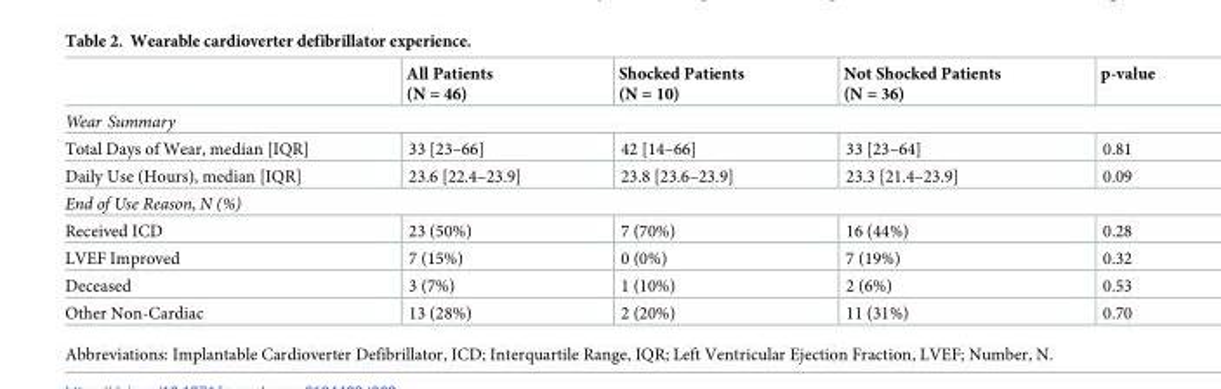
<table><thead><tr><td></td><td>All Patients (N = 46)</td><td>Shocked Patients (N = 10)</td><td>Not Shocked Patients (N = 36)</td><td>p-value</td></tr></thead><tbody><tr><td colspan="5">Wear Summary</td></tr><tr><td>Total Days of Wear, median [IQR]</td><td>33 [23–66]</td><td>42 [14–66]</td><td>33 [23–64]</td><td>0.81</td></tr><tr><td>Daily Use (Hours), median [IQR]</td><td>23.6 [22.4–23.9]</td><td>23.8 [23.6–23.9]</td><td>23.3 [21.4–23.9]</td><td>0.09</td></tr><tr><td colspan="5">End of Use Reason, N (%)</td></tr><tr><td>Received ICD</td><td>23 (50%)</td><td>7 (70%)</td><td>16 (44%)</td><td>0.28</td></tr><tr><td>LVEF Improved</td><td>7 (15%)</td><td>0 (0%)</td><td>7 (19%)</td><td>0.32</td></tr><tr><td>Deceased</td><td>3 (7%)</td><td>1 (10%)</td><td>2 (6%)</td><td>0.53</td></tr><tr><td>Other Non-Cardiac</td><td>13 (28%)</td><td>2 (20%)</td><td>11 (31%)</td><td>0.70</td></tr></tbody></table>